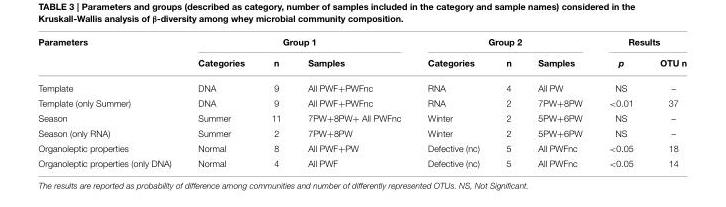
<table><thead><tr><td rowspan="2">Parameters</td><td colspan="3">Group 1</td><td colspan="3">Group 2</td><td colspan="2">Results</td></tr><tr><td>Categories</td><td>n</td><td>Samples</td><td>Categories</td><td>n</td><td>Samples</td><td>p</td><td>OTU n</td></tr></thead><tbody><tr><td>Template</td><td>DNA</td><td>9</td><td>All PWF+PWFnc</td><td>RNA</td><td>4</td><td>All PW</td><td>NS</td><td>–</td></tr><tr><td>Template (only Summer)</td><td>DNA</td><td>9</td><td>All PWF+PWFnc</td><td>RNA</td><td>2</td><td>7PW+8PW</td><td>&lt;0.01</td><td>37</td></tr><tr><td>Season</td><td>Summer</td><td>11</td><td>7PW+8PW+ All PWFnc</td><td>Winter</td><td>2</td><td>5PW+6PW</td><td>NS</td><td>–</td></tr><tr><td>Season (only RNA)</td><td>Summer</td><td>2</td><td>7PW+8PW</td><td>Winter</td><td>2</td><td>5PW+6PW</td><td>NS</td><td>–</td></tr><tr><td>Organoleptic properties</td><td>Normal</td><td>8</td><td>All PWF+PW</td><td>Defective (nc)</td><td>5</td><td>All PWFnc</td><td>&lt;0.05</td><td>18</td></tr><tr><td>Organoleptic properties (only DNA)</td><td>Normal</td><td>4</td><td>All PWF</td><td>Defective (nc)</td><td>5</td><td>All PWFnc</td><td>&lt;0.05</td><td>14</td></tr></tbody></table>